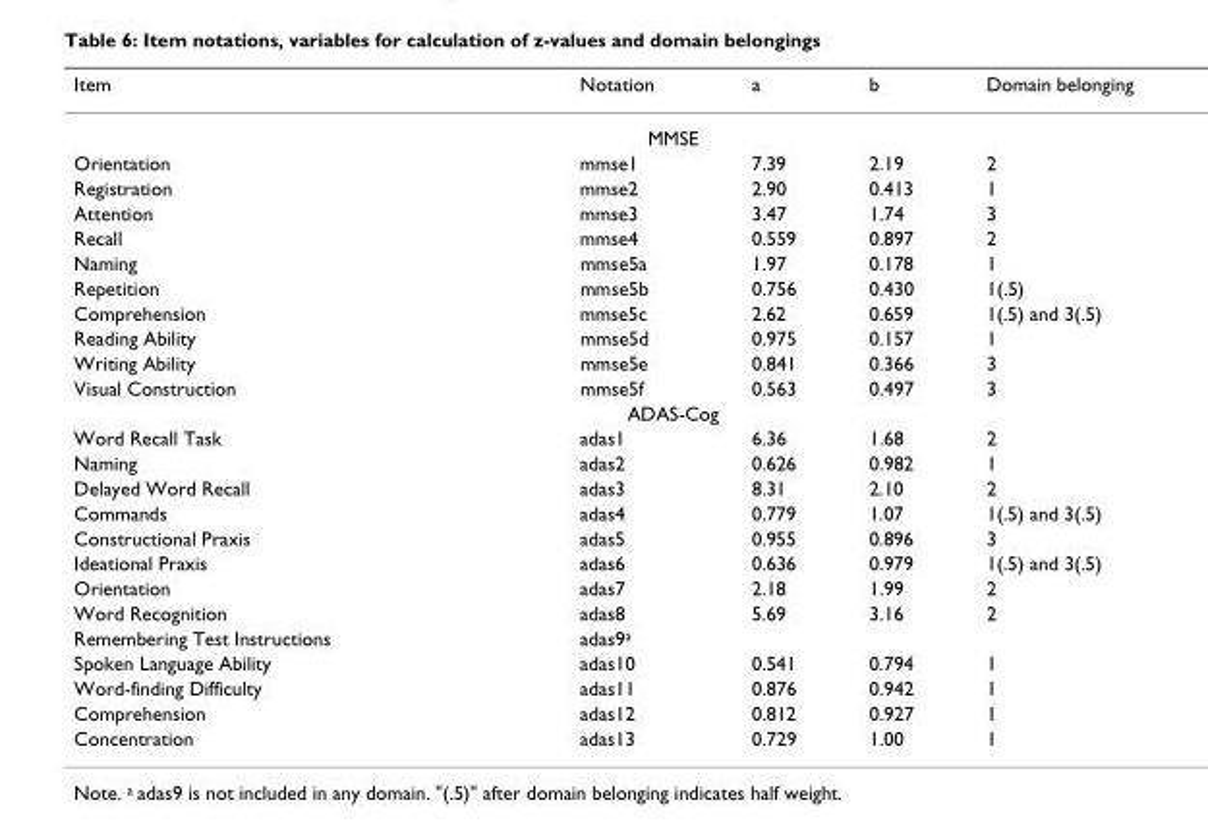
<table><thead><tr><td>Item</td><td>Notation</td><td>a</td><td>b</td><td>Domain belonging</td></tr></thead><tbody><tr><td colspan="5">MMSE</td></tr><tr><td>Orientation</td><td>mmse1</td><td>7.39</td><td>2.19</td><td>2</td></tr><tr><td>Registration</td><td>mmse2</td><td>2.90</td><td>0.413</td><td>1</td></tr><tr><td>Attention</td><td>mmse3</td><td>3.47</td><td>1.74</td><td>3</td></tr><tr><td>Recall</td><td>mmse4</td><td>0.559</td><td>0.897</td><td>2</td></tr><tr><td>Naming</td><td>mmse5a</td><td>1.97</td><td>0.178</td><td>1</td></tr><tr><td>Repetition</td><td>mmse5b</td><td>0.756</td><td>0.430</td><td>1(.5)</td></tr><tr><td>Comprehension</td><td>mmse5c</td><td>2.62</td><td>0.659</td><td>1(.5) and 3(.5)</td></tr><tr><td>Reading Ability</td><td>mmse5d</td><td>0.975</td><td>0.157</td><td>1</td></tr><tr><td>Writing Ability</td><td>mmse5e</td><td>0.841</td><td>0.366</td><td>3</td></tr><tr><td>Visual Construction</td><td>mmse5f</td><td>0.563</td><td>0.497</td><td>3</td></tr><tr><td colspan="5">ADAS-Cog</td></tr><tr><td>Word Recall Task</td><td>adas1</td><td>6.36</td><td>1.68</td><td>2</td></tr><tr><td>Naming</td><td>adas2</td><td>0.626</td><td>0.982</td><td>1</td></tr><tr><td>Delayed Word Recall</td><td>adas3</td><td>8.31</td><td>2.10</td><td>2</td></tr><tr><td>Commands</td><td>adas4</td><td>0.779</td><td>1.07</td><td>1(.5) and 3(.5)</td></tr><tr><td>Constructional Praxis</td><td>adas5</td><td>0.955</td><td>0.896</td><td>3</td></tr><tr><td>Ideational Praxis</td><td>adas6</td><td>0.636</td><td>0.979</td><td>1(.5) and 3(.5)</td></tr><tr><td>Orientation</td><td>adas7</td><td>2.18</td><td>1.99</td><td>2</td></tr><tr><td>Word Recognition</td><td>adas8</td><td>5.69</td><td>3.16</td><td>2</td></tr><tr><td>Remembering Test Instructions</td><td>adas9<sup>a</sup></td><td></td><td></td><td></td></tr><tr><td>Spoken Language Ability</td><td>adas10</td><td>0.541</td><td>0.794</td><td>1</td></tr><tr><td>Word-finding Difficulty</td><td>adas11</td><td>0.876</td><td>0.942</td><td>1</td></tr><tr><td>Comprehension</td><td>adas12</td><td>0.812</td><td>0.927</td><td>1</td></tr><tr><td>Concentration</td><td>adas13</td><td>0.729</td><td>1.00</td><td>1</td></tr></tbody></table>